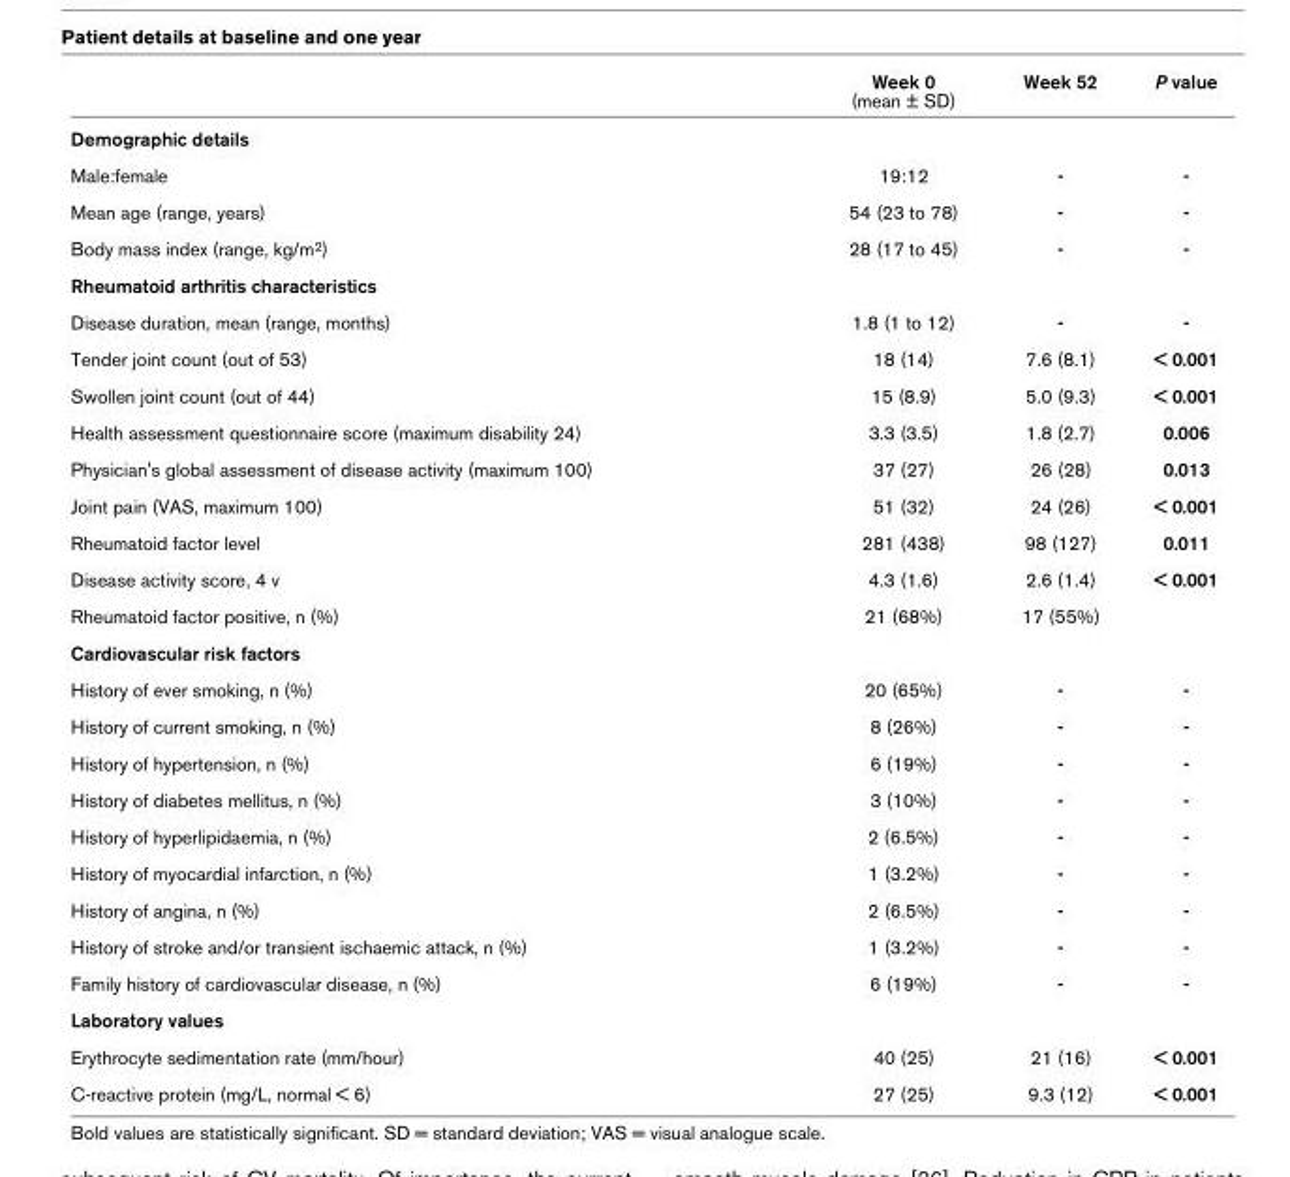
<table><thead><tr><td></td><td>Week 0 (mean ± SD)</td><td>Week 52</td><td>P value</td></tr></thead><tbody><tr><td colspan="4">Demographic details</td></tr><tr><td>Male:female</td><td>19:12</td><td>-</td><td>-</td></tr><tr><td>Mean age (range, years)</td><td>54 (23 to 78)</td><td>-</td><td>-</td></tr><tr><td>Body mass index (range, kg/m<sup>2</sup>)</td><td>28 (17 to 45)</td><td>-</td><td>-</td></tr><tr><td colspan="4">Rheumatoid arthritis characteristics</td></tr><tr><td>Disease duration, mean (range, months)</td><td>1.8 (1 to 12)</td><td>-</td><td>-</td></tr><tr><td>Tender joint count (out of 53)</td><td>18 (14)</td><td>7.6 (8.1)</td><td>&lt; 0.001</td></tr><tr><td>Swollen joint count (out of 44)</td><td>15 (8.9)</td><td>5.0 (9.3)</td><td>&lt; 0.001</td></tr><tr><td>Health assessment questionnaire score (maximum disability 24)</td><td>3.3 (3.5)</td><td>1.8 (2.7)</td><td>0.006</td></tr><tr><td>Physician&#x27;s global assessment of disease activity (maximum 100)</td><td>37 (27)</td><td>26 (28)</td><td>0.013</td></tr><tr><td>Joint pain (VAS, maximum 100)</td><td>51 (32)</td><td>24 (26)</td><td>&lt; 0.001</td></tr><tr><td>Rheumatoid factor level</td><td>281 (438)</td><td>98 (127)</td><td>0.011</td></tr><tr><td>Disease activity score, 4 v</td><td>4.3 (1.6)</td><td>2.6 (1.4)</td><td>&lt; 0.001</td></tr><tr><td>Rheumatoid factor positive, n (%)</td><td>21 (68%)</td><td>17 (55%)</td><td></td></tr><tr><td colspan="4">Cardiovascular risk factors</td></tr><tr><td>History of ever smoking, n (%)</td><td>20 (65%)</td><td>-</td><td>-</td></tr><tr><td>History of current smoking, n (%)</td><td>8 (26%)</td><td>-</td><td>-</td></tr><tr><td>History of hypertension, n (%)</td><td>6 (19%)</td><td>-</td><td>-</td></tr><tr><td>History of diabetes mellitus, n (%)</td><td>3 (10%)</td><td>-</td><td>-</td></tr><tr><td>History of hyperlipidaemia, n (%)</td><td>2 (6.5%)</td><td>-</td><td>-</td></tr><tr><td>History of myocardial infarction, n (%)</td><td>1 (3.2%)</td><td>-</td><td>-</td></tr><tr><td>History of angina, n (%)</td><td>2 (6.5%)</td><td>-</td><td>-</td></tr><tr><td>History of stroke and/or transient ischaemic attack, n (%)</td><td>1 (3.2%)</td><td>-</td><td>-</td></tr><tr><td>Family history of cardiovascular disease, n (%)</td><td>6 (19%)</td><td>-</td><td>-</td></tr><tr><td colspan="4">Laboratory values</td></tr><tr><td>Erythrocyte sedimentation rate (mm/hour)</td><td>40 (25)</td><td>21 (16)</td><td>&lt; 0.001</td></tr><tr><td>C-reactive protein (mg/L, normal &lt; 6)</td><td>27 (25)</td><td>9.3 (12)</td><td>&lt; 0.001</td></tr></tbody></table>